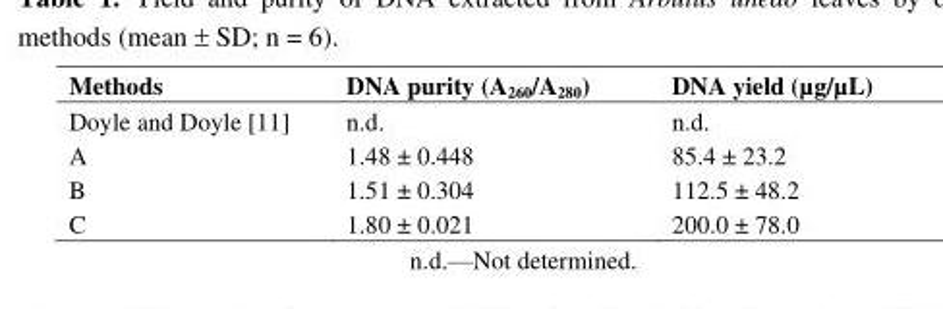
<table><thead><tr><td>Methods</td><td>DNA purity (A<sub>260</sub>/A<sub>280</sub>)</td><td>DNA yield (µg/µL)</td></tr></thead><tbody><tr><td>Doyle and Doyle [11]</td><td>n.d.</td><td>n.d.</td></tr><tr><td>A</td><td>1.48 ± 0.448</td><td>85.4 ± 23.2</td></tr><tr><td>B</td><td>1.51 ± 0.304</td><td>112.5 ± 48.2</td></tr><tr><td>C</td><td>1.80 ± 0.021</td><td>200.0 ± 78.0</td></tr></tbody></table>